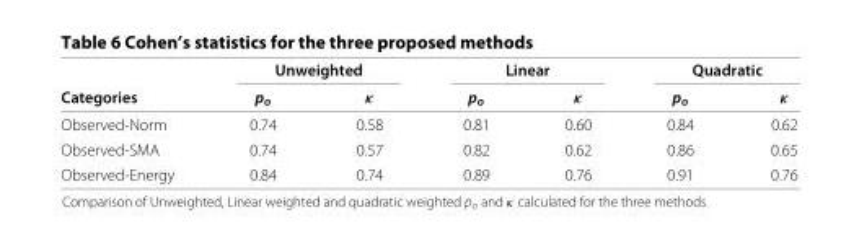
<table><thead><tr><td rowspan="2">Categories</td><td colspan="2">Unweighted</td><td colspan="2">Linear</td><td colspan="2">Quadratic</td></tr><tr><td>p<sub>o</sub></td><td>κ</td><td>p<sub>o</sub></td><td>κ</td><td>p<sub>o</sub></td><td>κ</td></tr></thead><tbody><tr><td>Observed-Norm</td><td>0.74</td><td>0.58</td><td>0.81</td><td>0.60</td><td>0.84</td><td>0.62</td></tr><tr><td>Observed-SMA</td><td>0.74</td><td>0.57</td><td>0.82</td><td>0.62</td><td>0.86</td><td>0.65</td></tr><tr><td>Observed-Energy</td><td>0.84</td><td>0.74</td><td>0.89</td><td>0.76</td><td>0.91</td><td>0.76</td></tr></tbody></table>